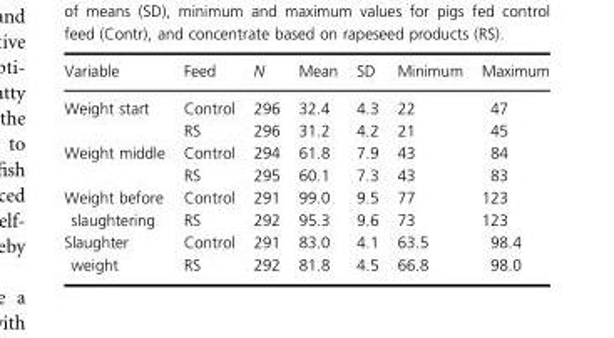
<table><thead><tr><td>Variable</td><td>Feed</td><td>N</td><td>Mean</td><td>SD</td><td>Minimum</td><td>Maximum</td></tr></thead><tbody><tr><td rowspan="2">Weight start</td><td>Control</td><td>296</td><td>32.4</td><td>4.3</td><td>22</td><td>47</td></tr><tr><td>RS</td><td>296</td><td>31.2</td><td>4.2</td><td>21</td><td>45</td></tr><tr><td rowspan="2">Weight middle</td><td>Control</td><td>294</td><td>61.8</td><td>7.9</td><td>43</td><td>84</td></tr><tr><td>RS</td><td>295</td><td>60.1</td><td>7.3</td><td>43</td><td>83</td></tr><tr><td rowspan="2">Weight before slaughtering</td><td>Control</td><td>291</td><td>99.0</td><td>9.5</td><td>77</td><td>123</td></tr><tr><td>RS</td><td>292</td><td>95.3</td><td>9.6</td><td>73</td><td>123</td></tr><tr><td rowspan="2">Slaughter weight</td><td>Control</td><td>291</td><td>83.0</td><td>4.1</td><td>63.5</td><td>98.4</td></tr><tr><td>RS</td><td>292</td><td>81.8</td><td>4.5</td><td>66.8</td><td>98.0</td></tr></tbody></table>